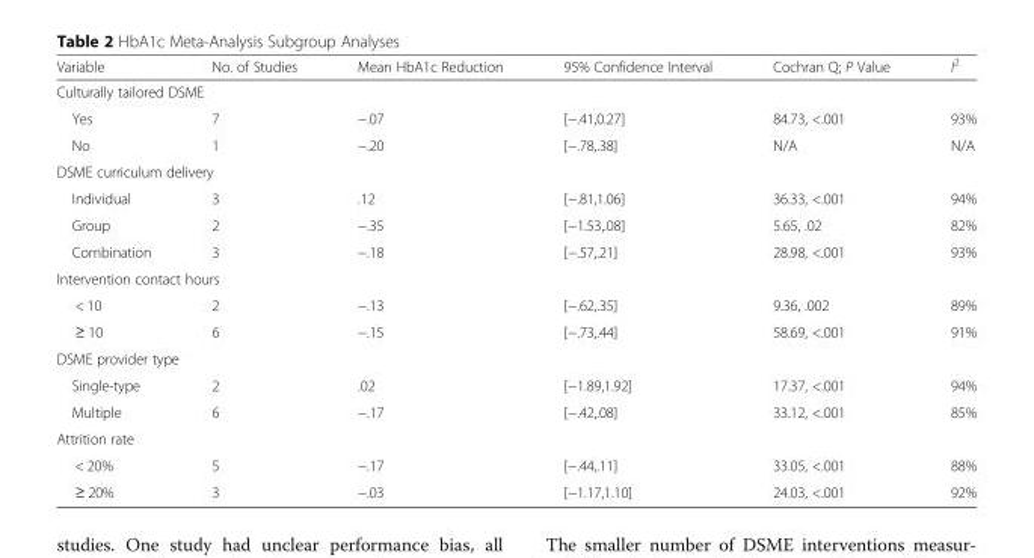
<table><thead><tr><td>Variable</td><td>No. of Studies</td><td>Mean HbA1c Reduction</td><td>95% Confidence Interval</td><td>Cochran Q; P Value</td><td>I<sup>2</sup></td></tr></thead><tbody><tr><td colspan="6">Culturally tailored DSME</td></tr><tr><td>Yes</td><td>7</td><td>−.07</td><td>[−.41,0.27]</td><td>84.73, &lt;.001</td><td>93%</td></tr><tr><td>No</td><td>1</td><td>−.20</td><td>[−.78,.38]</td><td>N/A</td><td>N/A</td></tr><tr><td colspan="6">DSME curriculum delivery</td></tr><tr><td>Individual</td><td>3</td><td>.12</td><td>[−.81,1.06]</td><td>36.33, &lt;.001</td><td>94%</td></tr><tr><td>Group</td><td>2</td><td>−.35</td><td>[−1.53,.08]</td><td>5.65, .02</td><td>82%</td></tr><tr><td>Combination</td><td>3</td><td>−.18</td><td>[−.57,.21]</td><td>28.98, &lt;.001</td><td>93%</td></tr><tr><td colspan="6">Intervention contact hours</td></tr><tr><td>&lt; 10</td><td>2</td><td>−.13</td><td>[−.62,.35]</td><td>9.36, .002</td><td>89%</td></tr><tr><td>≥ 10</td><td>6</td><td>−.15</td><td>[−.73,.44]</td><td>58.69, &lt;.001</td><td>91%</td></tr><tr><td colspan="6">DSME provider type</td></tr><tr><td>Single-type</td><td>2</td><td>.02</td><td>[−1.89,1.92]</td><td>17.37, &lt;.001</td><td>94%</td></tr><tr><td>Multiple</td><td>6</td><td>−.17</td><td>[−.42,.08]</td><td>33.12, &lt;.001</td><td>85%</td></tr><tr><td colspan="6">Attrition rate</td></tr><tr><td>&lt; 20%</td><td>5</td><td>−.17</td><td>[−.44,.11]</td><td>33.05, &lt;.001</td><td>88%</td></tr><tr><td>≥ 20%</td><td>3</td><td>−.03</td><td>[−1.17,1.10]</td><td>24.03, &lt;.001</td><td>92%</td></tr></tbody></table>